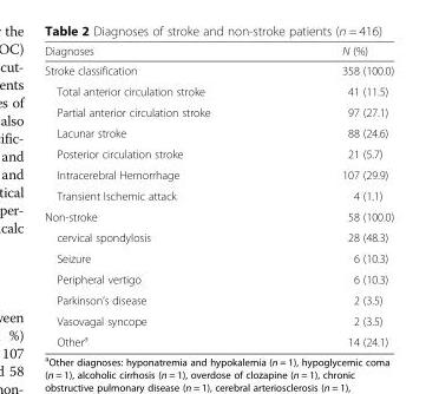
<table><thead><tr><td>Diagnoses</td><td>N (%)</td></tr></thead><tbody><tr><td>Stroke classification</td><td>358 (100.0)</td></tr><tr><td>Total anterior circulation stroke</td><td>41 (11.5)</td></tr><tr><td>Partial anterior circulation stroke</td><td>97 (27.1)</td></tr><tr><td>Lacunar stroke</td><td>88 (24.6)</td></tr><tr><td>Posterior circulation stroke</td><td>21 (5.7)</td></tr><tr><td>Intracerebral Hemorrhage</td><td>107 (29.9)</td></tr><tr><td>Transient Ischemic attack</td><td>4 (1.1)</td></tr><tr><td>Non-stroke</td><td>58 (100.0)</td></tr><tr><td>cervical spondylosis</td><td>28 (48.3)</td></tr><tr><td>Seizure</td><td>6 (10.3)</td></tr><tr><td>Peripheral vertigo</td><td>6 (10.3)</td></tr><tr><td>Parkinson’s disease</td><td>2 (3.5)</td></tr><tr><td>Vasovagal syncope</td><td>2 (3.5)</td></tr><tr><td>Other<sup>a</sup></td><td>14 (24.1)</td></tr></tbody></table>